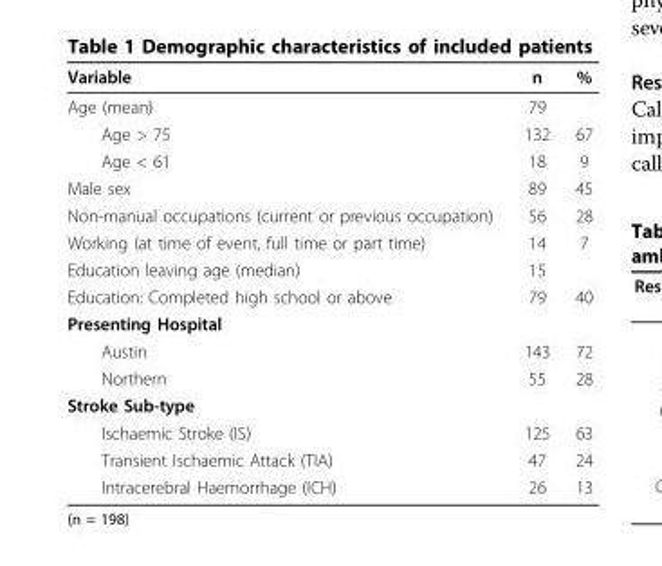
<table><thead><tr><td>Variable</td><td>n</td><td>%</td></tr></thead><tbody><tr><td>Age (mean)</td><td>79</td><td></td></tr><tr><td>Age &gt; 75</td><td>132</td><td>67</td></tr><tr><td>Age &lt; 61</td><td>18</td><td>9</td></tr><tr><td>Male sex</td><td>89</td><td>45</td></tr><tr><td>Non-manual occupations (current or previous occupation)</td><td>56</td><td>28</td></tr><tr><td>Working (at time of event, full time or part time)</td><td>14</td><td>7</td></tr><tr><td>Education leaving age (median)</td><td>15</td><td></td></tr><tr><td>Education: Completed high school or above</td><td>79</td><td>40</td></tr><tr><td colspan="3">Presenting Hospital</td></tr><tr><td>Austin</td><td>143</td><td>72</td></tr><tr><td>Northern</td><td>55</td><td>28</td></tr><tr><td colspan="3">Stroke Sub-type</td></tr><tr><td>Ischaemic Stroke (IS)</td><td>125</td><td>63</td></tr><tr><td>Transient Ischaemic Attack (TIA)</td><td>47</td><td>24</td></tr><tr><td>Intracerebral Haemorrhage (ICH)</td><td>26</td><td>13</td></tr></tbody></table>